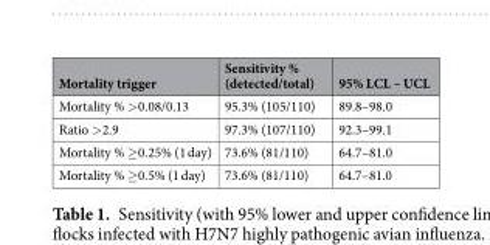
<table><thead><tr><td>Mortality trigger</td><td>Sensitivity % (detected/total)</td><td>95% LCL – UCL</td></tr></thead><tbody><tr><td>Mortality % &gt;0.08/0.13</td><td>95.3% (105/110)</td><td>89.8–98.0</td></tr><tr><td>Ratio &gt;2.9</td><td>97.3% (107/110)</td><td>92.3–99.1</td></tr><tr><td>Mortality % ≥0.25% (1 day)</td><td>73.6% (81/110)</td><td>64.7–81.0</td></tr><tr><td>Mortality % ≥0.5% (1 day)</td><td>73.6% (81/110)</td><td>64.7–81.0</td></tr></tbody></table>